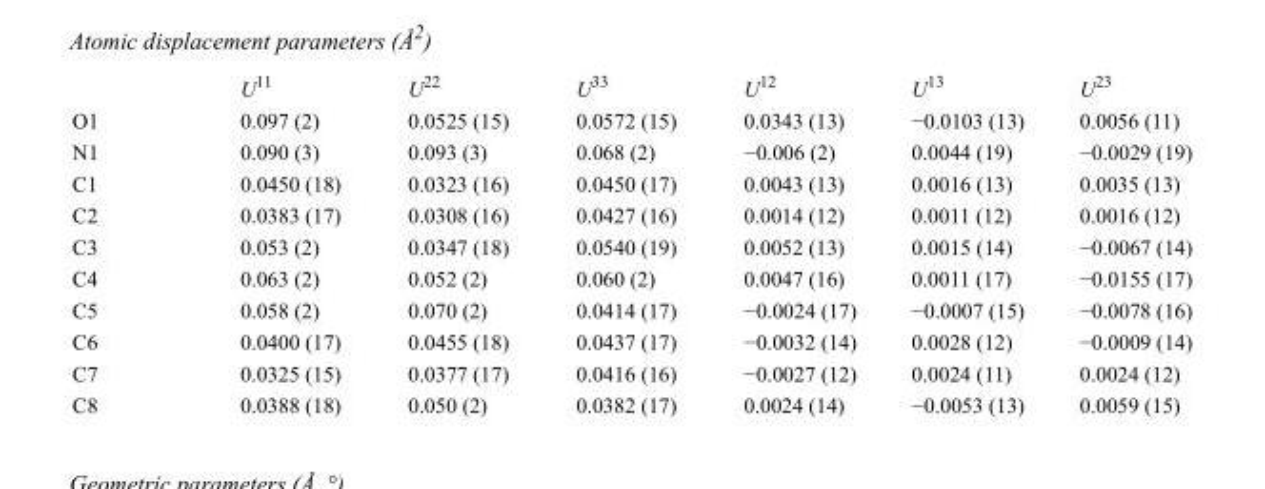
<table><thead><tr><td></td><td>U<sup>11</sup></td><td>U<sup>22</sup></td><td>U<sup>33</sup></td><td>U<sup>12</sup></td><td>U<sup>13</sup></td><td>U<sup>23</sup></td></tr></thead><tbody><tr><td>O1</td><td>0.097 (2)</td><td>0.0525 (15)</td><td>0.0572 (15)</td><td>0.0343 (13)</td><td>−0.0103 (13)</td><td>0.0056 (11)</td></tr><tr><td>N1</td><td>0.090 (3)</td><td>0.093 (3)</td><td>0.068 (2)</td><td>−0.006 (2)</td><td>0.0044 (19)</td><td>−0.0029 (19)</td></tr><tr><td>C1</td><td>0.0450 (18)</td><td>0.0323 (16)</td><td>0.0450 (17)</td><td>0.0043 (13)</td><td>0.0016 (13)</td><td>0.0035 (13)</td></tr><tr><td>C2</td><td>0.0383 (17)</td><td>0.0308 (16)</td><td>0.0427 (16)</td><td>0.0014 (12)</td><td>0.0011 (12)</td><td>0.0016 (12)</td></tr><tr><td>C3</td><td>0.053 (2)</td><td>0.0347 (18)</td><td>0.0540 (19)</td><td>0.0052 (13)</td><td>0.0015 (14)</td><td>−0.0067 (14)</td></tr><tr><td>C4</td><td>0.063 (2)</td><td>0.052 (2)</td><td>0.060 (2)</td><td>0.0047 (16)</td><td>0.0011 (17)</td><td>−0.0155 (17)</td></tr><tr><td>C5</td><td>0.058 (2)</td><td>0.070 (2)</td><td>0.0414 (17)</td><td>−0.0024 (17)</td><td>−0.0007 (15)</td><td>−0.0078 (16)</td></tr><tr><td>C6</td><td>0.0400 (17)</td><td>0.0455 (18)</td><td>0.0437 (17)</td><td>−0.0032 (14)</td><td>0.0028 (12)</td><td>−0.0009 (14)</td></tr><tr><td>C7</td><td>0.0325 (15)</td><td>0.0377 (17)</td><td>0.0416 (16)</td><td>−0.0027 (12)</td><td>0.0024 (11)</td><td>0.0024 (12)</td></tr><tr><td>C8</td><td>0.0388 (18)</td><td>0.050 (2)</td><td>0.0382 (17)</td><td>0.0024 (14)</td><td>−0.0053 (13)</td><td>0.0059 (15)</td></tr></tbody></table>